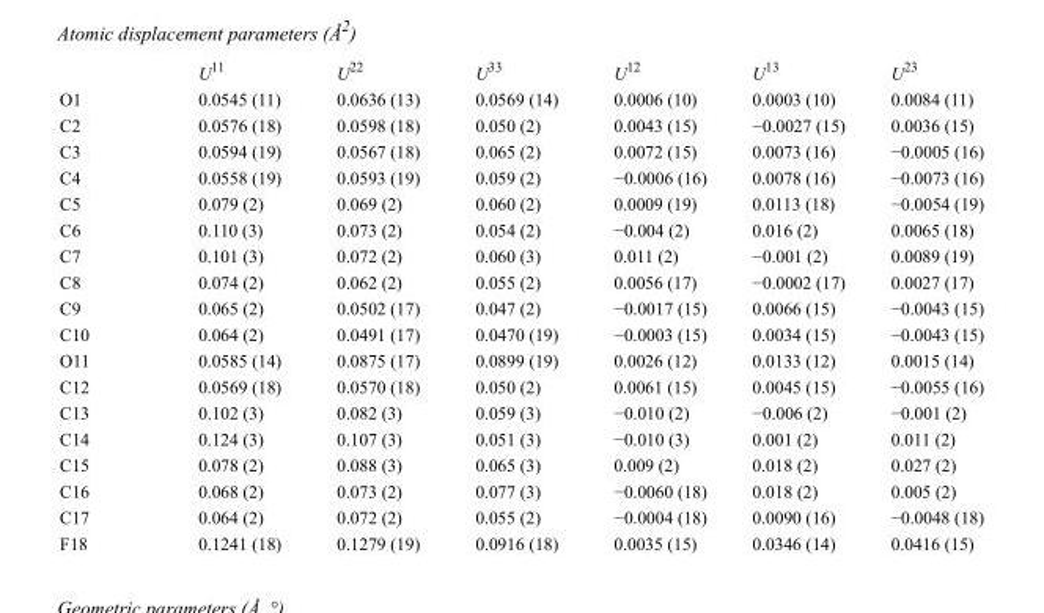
<table><thead><tr><td></td><td>U<sup>11</sup></td><td>U<sup>22</sup></td><td>U<sup>33</sup></td><td>U<sup>12</sup></td><td>U<sup>13</sup></td><td>U<sup>23</sup></td></tr></thead><tbody><tr><td>O1</td><td>0.0545 (11)</td><td>0.0636 (13)</td><td>0.0569 (14)</td><td>0.0006 (10)</td><td>0.0003 (10)</td><td>0.0084 (11)</td></tr><tr><td>C2</td><td>0.0576 (18)</td><td>0.0598 (18)</td><td>0.050 (2)</td><td>0.0043 (15)</td><td>−0.0027 (15)</td><td>0.0036 (15)</td></tr><tr><td>C3</td><td>0.0594 (19)</td><td>0.0567 (18)</td><td>0.065 (2)</td><td>0.0072 (15)</td><td>0.0073 (16)</td><td>−0.0005 (16)</td></tr><tr><td>C4</td><td>0.0558 (19)</td><td>0.0593 (19)</td><td>0.059 (2)</td><td>−0.0006 (16)</td><td>0.0078 (16)</td><td>−0.0073 (16)</td></tr><tr><td>C5</td><td>0.079 (2)</td><td>0.069 (2)</td><td>0.060 (2)</td><td>0.0009 (19)</td><td>0.0113 (18)</td><td>−0.0054 (19)</td></tr><tr><td>C6</td><td>0.110 (3)</td><td>0.073 (2)</td><td>0.054 (2)</td><td>−0.004 (2)</td><td>0.016 (2)</td><td>0.0065 (18)</td></tr><tr><td>C7</td><td>0.101 (3)</td><td>0.072 (2)</td><td>0.060 (3)</td><td>0.011 (2)</td><td>−0.001 (2)</td><td>0.0089 (19)</td></tr><tr><td>C8</td><td>0.074 (2)</td><td>0.062 (2)</td><td>0.055 (2)</td><td>0.0056 (17)</td><td>−0.0002 (17)</td><td>0.0027 (17)</td></tr><tr><td>C9</td><td>0.065 (2)</td><td>0.0502 (17)</td><td>0.047 (2)</td><td>−0.0017 (15)</td><td>0.0066 (15)</td><td>−0.0043 (15)</td></tr><tr><td>C10</td><td>0.064 (2)</td><td>0.0491 (17)</td><td>0.0470 (19)</td><td>−0.0003 (15)</td><td>0.0034 (15)</td><td>−0.0043 (15)</td></tr><tr><td>O11</td><td>0.0585 (14)</td><td>0.0875 (17)</td><td>0.0899 (19)</td><td>0.0026 (12)</td><td>0.0133 (12)</td><td>0.0015 (14)</td></tr><tr><td>C12</td><td>0.0569 (18)</td><td>0.0570 (18)</td><td>0.050 (2)</td><td>0.0061 (15)</td><td>0.0045 (15)</td><td>−0.0055 (16)</td></tr><tr><td>C13</td><td>0.102 (3)</td><td>0.082 (3)</td><td>0.059 (3)</td><td>−0.010 (2)</td><td>−0.006 (2)</td><td>−0.001 (2)</td></tr><tr><td>C14</td><td>0.124 (3)</td><td>0.107 (3)</td><td>0.051 (3)</td><td>−0.010 (3)</td><td>0.001 (2)</td><td>0.011 (2)</td></tr><tr><td>C15</td><td>0.078 (2)</td><td>0.088 (3)</td><td>0.065 (3)</td><td>0.009 (2)</td><td>0.018 (2)</td><td>0.027 (2)</td></tr><tr><td>C16</td><td>0.068 (2)</td><td>0.073 (2)</td><td>0.077 (3)</td><td>−0.0060 (18)</td><td>0.018 (2)</td><td>0.005 (2)</td></tr><tr><td>C17</td><td>0.064 (2)</td><td>0.072 (2)</td><td>0.055 (2)</td><td>−0.0004 (18)</td><td>0.0090 (16)</td><td>−0.0048 (18)</td></tr><tr><td>F18</td><td>0.1241 (18)</td><td>0.1279 (19)</td><td>0.0916 (18)</td><td>0.0035 (15)</td><td>0.0346 (14)</td><td>0.0416 (15)</td></tr></tbody></table>